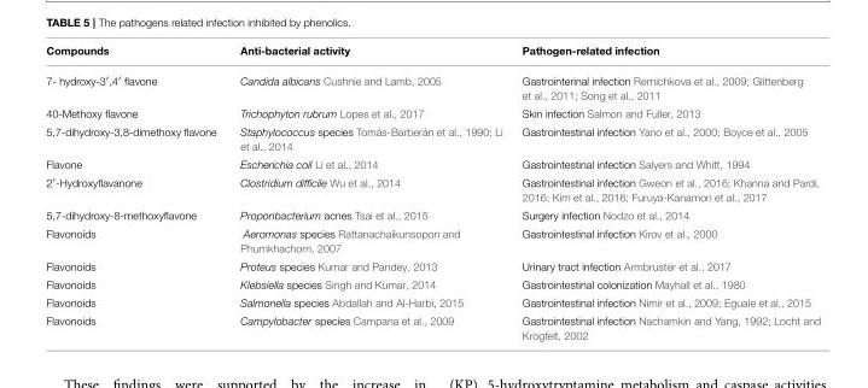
<table><thead><tr><td>Compounds</td><td>Anti-bacterial activity</td><td>Pathogen-related infection</td></tr></thead><tbody><tr><td>7- hydroxy-3′,4′ flavone</td><td>Candida albicans Cushnie and Lamb, 2005</td><td>Gastrointerinal infection Remichkova et al., 2009; Glittenberg et al., 2011; Song et al., 2011</td></tr><tr><td>40-Methoxy flavone</td><td>Trichophyton rubrum Lopes et al., 2017</td><td>Skin infection Salmon and Fuller, 2013</td></tr><tr><td>5,7-dihydroxy-3,8-dimethoxy flavone</td><td>Staphylococcus species Tomás-Barberán et al., 1990; Li et al., 2014</td><td>Gastrointestinal infection Yano et al., 2000; Boyce et al., 2005</td></tr><tr><td>Flavone</td><td>Escherichia coil Li et al., 2014</td><td>Gastrointestinal infection Salyers and Whitt, 1994</td></tr><tr><td>2′-Hydroxyflavanone</td><td>Clostridium difficile Wu et al., 2014</td><td>Gastrointestinal infection Gweon et al., 2016; Khanna and Pardi, 2016; Kim et al., 2016; Furuya-Kanamori et al., 2017</td></tr><tr><td>5,7-dihydroxy-8-methoxyflavone</td><td>Proponbacterium acnes Tsai et al., 2015</td><td>Surgery infection Nodzo et al., 2014</td></tr><tr><td>Flavonoids</td><td>Aeromonas species Rattanachaikunsopon and Phumkhachorn, 2007</td><td>Gastrointestinal infection Kirov et al., 2000</td></tr><tr><td>Flavonoids</td><td>Proteus species Kumar and Pandey, 2013</td><td>Urinary tract infection Armbruster et al., 2017</td></tr><tr><td>Flavonoids</td><td>Klebsiella species Singh and Kumar, 2014</td><td>Gastrointestinal colonization Mayhall et al., 1980</td></tr><tr><td>Flavonoids</td><td>Salmonella species Abdallah and Al-Harbi, 2015</td><td>Gastrointestinal infection Nimir et al., 2009; Eguale et al., 2015</td></tr><tr><td>Flavonoids</td><td>Campylobacter species Campana et al., 2009</td><td>Gastrointestinal infection Nachamkin and Yang, 1992; Locht and Krogfelt, 2002</td></tr></tbody></table>